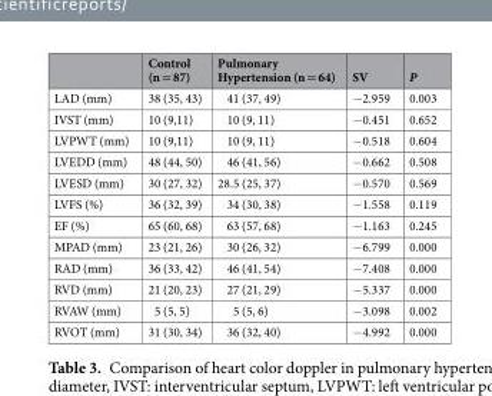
<table><thead><tr><td></td><td>Control (n = 87)</td><td>Pulmonary Hypertension (n = 64)</td><td>SV</td><td>P</td></tr></thead><tbody><tr><td>LAD (mm)</td><td>38 (35, 43)</td><td>41 (37, 49)</td><td>−2.959</td><td>0.003</td></tr><tr><td>IVST (mm)</td><td>10 (9,11)</td><td>10 (9, 11)</td><td>−0.451</td><td>0.652</td></tr><tr><td>LVPWT (mm)</td><td>10 (9,11)</td><td>10 (9, 11)</td><td>−0.518</td><td>0.604</td></tr><tr><td>LVEDD (mm)</td><td>48 (44, 50)</td><td>46 (41, 56)</td><td>−0.662</td><td>0.508</td></tr><tr><td>LVESD (mm)</td><td>30 (27, 32)</td><td>28.5 (25, 37)</td><td>−0.570</td><td>0.569</td></tr><tr><td>LVFS (%)</td><td>36 (32, 39)</td><td>34 (30, 38)</td><td>−1.558</td><td>0.119</td></tr><tr><td>EF (%)</td><td>65 (60, 68)</td><td>63 (57, 68)</td><td>−1.163</td><td>0.245</td></tr><tr><td>MPAD (mm)</td><td>23 (21, 26)</td><td>30 (26, 32)</td><td>−6.799</td><td>0.000</td></tr><tr><td>RAD (mm)</td><td>36 (33, 42)</td><td>46 (41, 54)</td><td>−7.408</td><td>0.000</td></tr><tr><td>RVD (mm)</td><td>21 (20, 23)</td><td>27 (21, 29)</td><td>−5.337</td><td>0.000</td></tr><tr><td>RVAW (mm)</td><td>5 (5, 5)</td><td>5 (5, 6)</td><td>−3.098</td><td>0.002</td></tr><tr><td>RVOT (mm)</td><td>31 (30, 34)</td><td>36 (32, 40)</td><td>−4.992</td><td>0.000</td></tr></tbody></table>